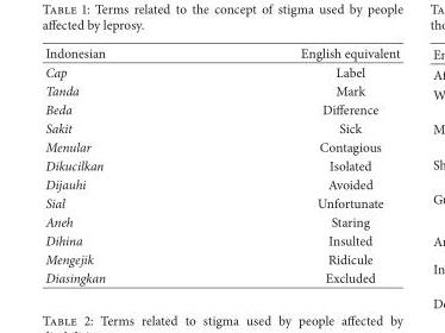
<table><thead><tr><td>Indonesian</td><td>English equivalent</td></tr></thead><tbody><tr><td>Cap</td><td>Label</td></tr><tr><td>Tanda</td><td>Mark</td></tr><tr><td>Beda</td><td>Difference</td></tr><tr><td>Sakit</td><td>Sick</td></tr><tr><td>Menular</td><td>Contagious</td></tr><tr><td>Dikucilkan</td><td>Isolated</td></tr><tr><td>Dijauhi</td><td>Avoided</td></tr><tr><td>Sial</td><td>Unfortunate</td></tr><tr><td>Aneh</td><td>Staring</td></tr><tr><td>Dihina</td><td>Insulted</td></tr><tr><td>Mengejik</td><td>Ridicule</td></tr><tr><td>Diasingkan</td><td>Excluded</td></tr></tbody></table>